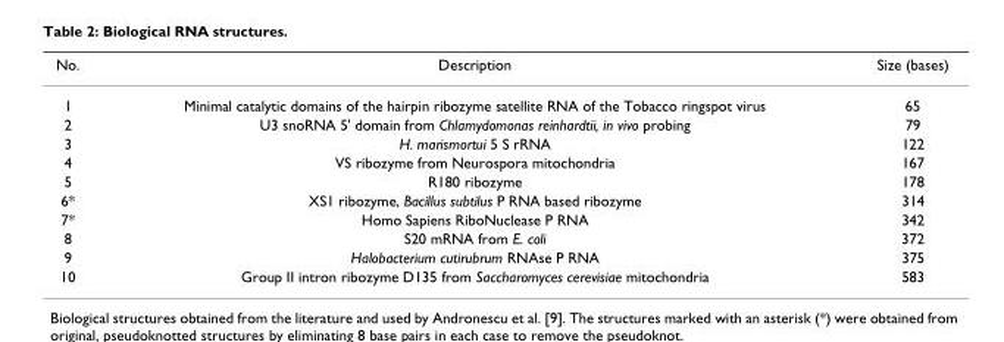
<table><thead><tr><td>No.</td><td>Description</td><td>Size (bases)</td></tr></thead><tbody><tr><td>1</td><td>Minimal catalytic domains of the hairpin ribozyme satellite RNA of the Tobacco ringspot virus</td><td>65</td></tr><tr><td>2</td><td>U3 snoRNA 5&#x27; domain from Chlamydomonas reinhardtii, in vivo probing</td><td>79</td></tr><tr><td>3</td><td>H. marismortui 5 S rRNA</td><td>122</td></tr><tr><td>4</td><td>VS ribozyme from Neurospora mitochondria</td><td>167</td></tr><tr><td>5</td><td>R180 ribozyme</td><td>178</td></tr><tr><td>6*</td><td>XS1 ribozyme, Bacillus subtilus P RNA based ribozyme</td><td>314</td></tr><tr><td>7*</td><td>Homo Sapiens RiboNuclease P RNA</td><td>342</td></tr><tr><td>8</td><td>S20 mRNA from E. coli</td><td>372</td></tr><tr><td>9</td><td>Halobacterium cutirubrum RNAse P RNA</td><td>375</td></tr><tr><td>10</td><td>Group II intron ribozyme D135 from Saccharomyces cerevisiae mitochondria</td><td>583</td></tr></tbody></table>